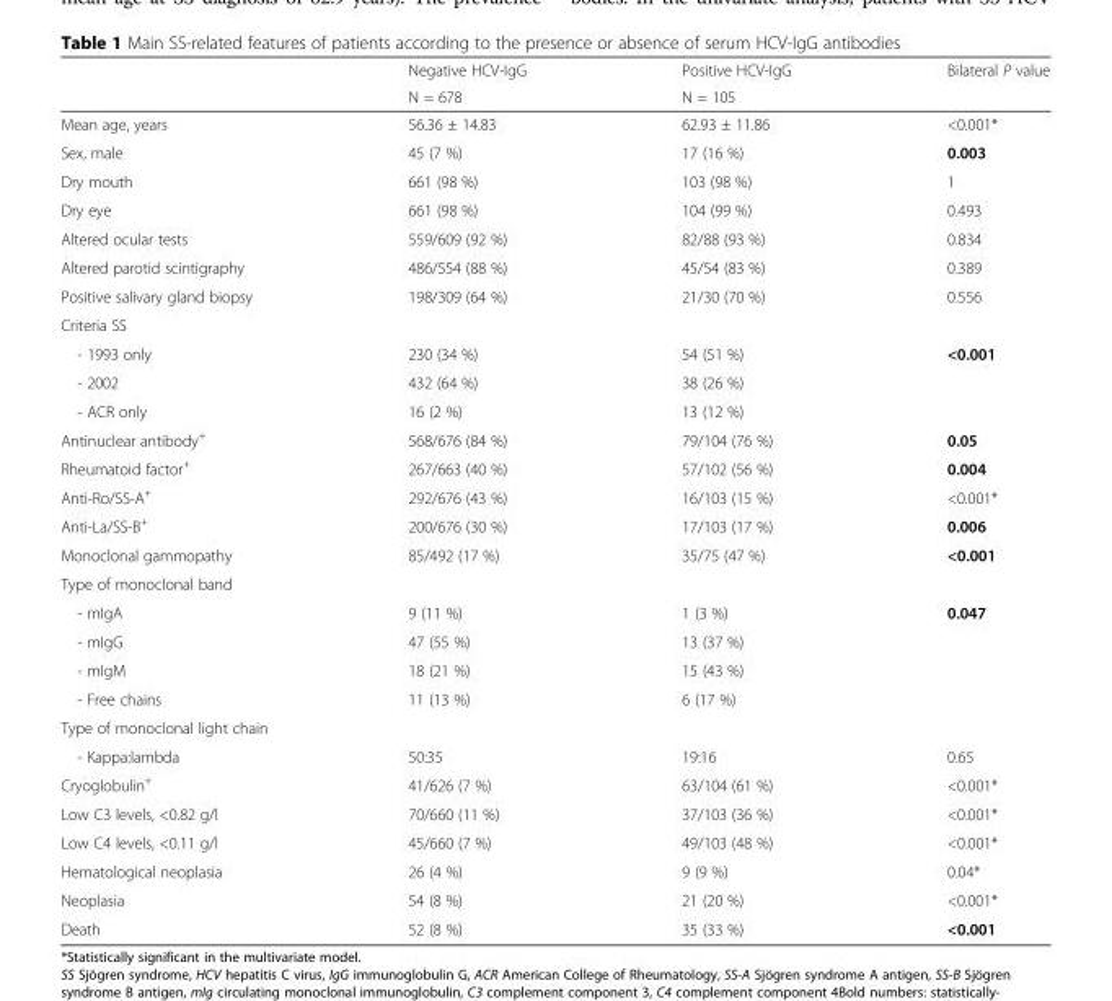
<table><thead><tr><td rowspan="2"></td><td rowspan="2">Negative HCV-IgG N = 678</td><td rowspan="2">Positive HCV-IgG N = 105</td><td rowspan="2">Bilateral P value</td></tr><tr></tr></thead><tbody><tr><td>Mean age, years</td><td>56.36 ± 14.83</td><td>62.93 ± 11.86</td><td>&lt;0.001*</td></tr><tr><td>Sex, male</td><td>45 (7 %)</td><td>17 (16 %)</td><td>0.003</td></tr><tr><td>Dry mouth</td><td>661 (98 %)</td><td>103 (98 %)</td><td>1</td></tr><tr><td>Dry eye</td><td>661 (98 %)</td><td>104 (99 %)</td><td>0.493</td></tr><tr><td>Altered ocular tests</td><td>559/609 (92 %)</td><td>82/88 (93 %)</td><td>0.834</td></tr><tr><td>Altered parotid scintigraphy</td><td>486/554 (88 %)</td><td>45/54 (83 %)</td><td>0.389</td></tr><tr><td>Positive salivary gland biopsy</td><td>198/309 (64 %)</td><td>21/30 (70 %)</td><td>0.556</td></tr><tr><td colspan="4">Criteria SS</td></tr><tr><td>- 1993 only</td><td>230 (34 %)</td><td>54 (51 %)</td><td rowspan="3">&lt;0.001</td></tr><tr><td>- 2002</td><td>432 (64 %)</td><td>38 (26 %)</td></tr><tr><td>- ACR only</td><td>16 (2 %)</td><td>13 (12 %)</td></tr><tr><td>Antinuclear antibody<sup>+</sup></td><td>568/676 (84 %)</td><td>79/104 (76 %)</td><td>0.05</td></tr><tr><td>Rheumatoid factor<sup>+</sup></td><td>267/663 (40 %)</td><td>57/102 (56 %)</td><td>0.004</td></tr><tr><td>Anti-Ro/SS-A<sup>+</sup></td><td>292/676 (43 %)</td><td>16/103 (15 %)</td><td>&lt;0.001*</td></tr><tr><td>Anti-La/SS-B<sup>+</sup></td><td>200/676 (30 %)</td><td>17/103 (17 %)</td><td>0.006</td></tr><tr><td>Monoclonal gammopathy</td><td>85/492 (17 %)</td><td>35/75 (47 %)</td><td>&lt;0.001</td></tr><tr><td colspan="4">Type of monoclonal band</td></tr><tr><td>- mIgA</td><td>9 (11 %)</td><td>1 (3 %)</td><td rowspan="4">0.047</td></tr><tr><td>- mIgG</td><td>47 (55 %)</td><td>13 (37 %)</td></tr><tr><td>- mIgM</td><td>18 (21 %)</td><td>15 (43 %)</td></tr><tr><td>- Free chains</td><td>11 (13 %)</td><td>6 (17 %)</td></tr><tr><td colspan="4">Type of monoclonal light chain</td></tr><tr><td>- Kappa:lambda</td><td>50:35</td><td>19:16</td><td>0.65</td></tr><tr><td>Cryoglobulin<sup>+</sup></td><td>41/626 (7 %)</td><td>63/104 (61 %)</td><td>&lt;0.001*</td></tr><tr><td>Low C3 levels, &lt;0.82 g/l</td><td>70/660 (11 %)</td><td>37/103 (36 %)</td><td>&lt;0.001*</td></tr><tr><td>Low C4 levels, &lt;0.11 g/l</td><td>45/660 (7 %)</td><td>49/103 (48 %)</td><td>&lt;0.001*</td></tr><tr><td>Hematological neoplasia</td><td>26 (4 %)</td><td>9 (9 %)</td><td>0.04*</td></tr><tr><td>Neoplasia</td><td>54 (8 %)</td><td>21 (20 %)</td><td>&lt;0.001*</td></tr><tr><td>Death</td><td>52 (8 %)</td><td>35 (33 %)</td><td>&lt;0.001</td></tr></tbody></table>